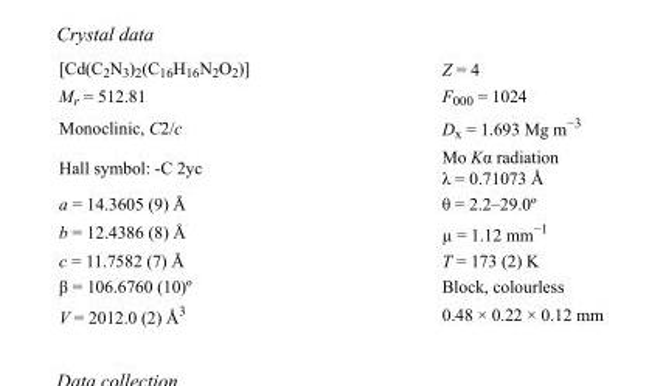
<table><tbody><tr><td>[Cd(C<sub>2</sub>N<sub>3</sub>)<sub>2</sub>(C<sub>16</sub>H<sub>16</sub>N<sub>2</sub>O<sub>2</sub>)]</td><td>Z = 4</td></tr><tr><td>M<sub>r</sub> = 512.81</td><td>F<sub>000</sub> = 1024</td></tr><tr><td>Monoclinic, C2/c</td><td>D<sub>x</sub> = 1.693 Mg m<sup>−3</sup></td></tr><tr><td>Hall symbol: -C 2yc</td><td>Mo Kα radiation λ = 0.71073 Å</td></tr><tr><td>a = 14.3605 (9) Å</td><td>θ = 2.2–29.0º</td></tr><tr><td>b = 12.4386 (8) Å</td><td>µ = 1.12 mm<sup>−1</sup></td></tr><tr><td>c = 11.7582 (7) Å</td><td>T = 173 (2) K</td></tr><tr><td>β = 106.6760 (10)º</td><td>Block, colourless</td></tr><tr><td>V = 2012.0 (2) Å<sup>3</sup></td><td>0.48 × 0.22 × 0.12 mm</td></tr></tbody></table>